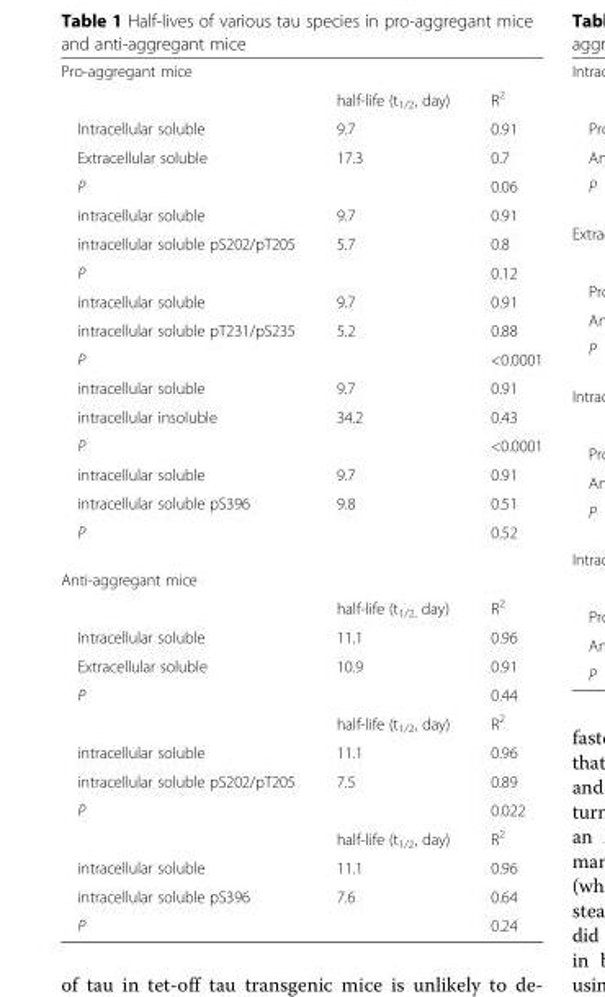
<table><tbody><tr><td colspan="3">Pro-aggregant mice</td></tr><tr><td></td><td>half-life (t<sub>1/2</sub>, day)</td><td>R<sup>2</sup></td></tr><tr><td>Intracellular soluble</td><td>9.7</td><td>0.91</td></tr><tr><td>Extracellular soluble</td><td>17.3</td><td>0.7</td></tr><tr><td>P</td><td></td><td>0.06</td></tr><tr><td>intracellular soluble</td><td>9.7</td><td>0.91</td></tr><tr><td>intracellular soluble pS202/pT205</td><td>5.7</td><td>0.8</td></tr><tr><td>P</td><td></td><td>0.12</td></tr><tr><td>intracellular soluble</td><td>9.7</td><td>0.91</td></tr><tr><td>intracellular soluble pT231/pS235</td><td>5.2</td><td>0.88</td></tr><tr><td>P</td><td></td><td>&lt;0.0001</td></tr><tr><td>intracellular soluble</td><td>9.7</td><td>0.91</td></tr><tr><td>intracellular insoluble</td><td>34.2</td><td>0.43</td></tr><tr><td>P</td><td></td><td>&lt;0.0001</td></tr><tr><td>intracellular soluble</td><td>9.7</td><td>0.91</td></tr><tr><td>intracellular soluble pS396</td><td>9.8</td><td>0.51</td></tr><tr><td>P</td><td></td><td>0.52</td></tr><tr><td colspan="3">Anti-aggregant mice</td></tr><tr><td></td><td>half-life (t<sub>1/2,</sub> day)</td><td>R<sup>2</sup></td></tr><tr><td>Intracellular soluble</td><td>11.1</td><td>0.96</td></tr><tr><td>Extracellular soluble</td><td>10.9</td><td>0.91</td></tr><tr><td rowspan="2">P</td><td></td><td>0.44</td></tr><tr><td>half-life (t<sub>1/2</sub>, day)</td><td>R<sup>2</sup></td></tr><tr><td>intracellular soluble</td><td>11.1</td><td>0.96</td></tr><tr><td>intracellular soluble pS202/pT205</td><td>7.5</td><td>0.89</td></tr><tr><td rowspan="2">P</td><td></td><td>0.022</td></tr><tr><td>half-life (t<sub>1/2</sub>, day)</td><td>R<sup>2</sup></td></tr><tr><td>intracellular soluble</td><td>11.1</td><td>0.96</td></tr><tr><td>intracellular soluble pS396</td><td>7.6</td><td>0.64</td></tr><tr><td>P</td><td></td><td>0.24</td></tr></tbody></table>